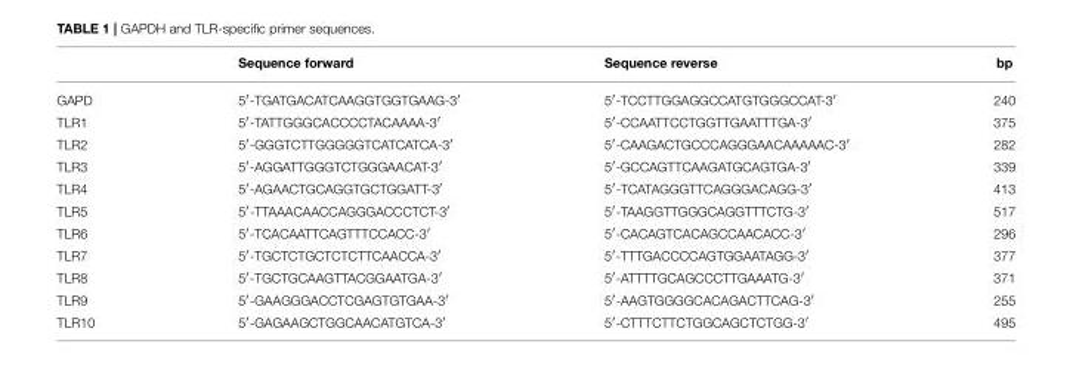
<table><thead><tr><td></td><td>Sequence forward</td><td>Sequence reverse</td><td>bp</td></tr></thead><tbody><tr><td>GAPD</td><td>5′-TGATGACATCAAGGTGGTGAAG-3′</td><td>5′-TCCTTGGAGGCCATGTGGGCCAT-3′</td><td>240</td></tr><tr><td>TLR1</td><td>5′-TATTGGGCACCCCTACAAAA-3′</td><td>5′-CCAATTCCTGGTTGAATTTGA-3′</td><td>375</td></tr><tr><td>TLR2</td><td>5′-GGGTCTTGGGGGTCATCATCA-3′</td><td>5′-CAAGACTGCCCAGGGAACAAAAAC-3′</td><td>282</td></tr><tr><td>TLR3</td><td>5′-AGGATTGGGTCTGGGAACAT-3′</td><td>5′-GCCAGTTCAAGATGCAGTGA-3′</td><td>339</td></tr><tr><td>TLR4</td><td>5′-AGAACTGCAGGTGCTGGATT-3′</td><td>5′-TCATAGGGTTCAGGGACAGG-3′</td><td>413</td></tr><tr><td>TLR5</td><td>5′-TTAAACAACCAGGGACCCTCT-3′</td><td>5′-TAAGGTTGGGCAGGTTTCTG-3′</td><td>517</td></tr><tr><td>TLR6</td><td>5′-TCACAATTCAGTTTCCACC-3′</td><td>5′-CACAGTCACAGCCAACACC-3′</td><td>296</td></tr><tr><td>TLR7</td><td>5′-TGCTCTGCTCTCTTCAACCA-3′</td><td>5′-TTTGACCCCAGTGGAATAGG-3′</td><td>377</td></tr><tr><td>TLR8</td><td>5′-TGCTGCAAGTTACGGAATGA-3′</td><td>5′-ATTTTGCAGCCCTTGAAATG-3′</td><td>371</td></tr><tr><td>TLR9</td><td>5′-GAAGGGACCTCGAGTGTGAA-3′</td><td>5′-AAGTGGGGCACAGACTTCAG-3′</td><td>255</td></tr><tr><td>TLR10</td><td>5′-GAGAAGCTGGCAACATGTCA-3′</td><td>5′-CTTTCTTCTGGCAGCTCTGG-3′</td><td>495</td></tr></tbody></table>